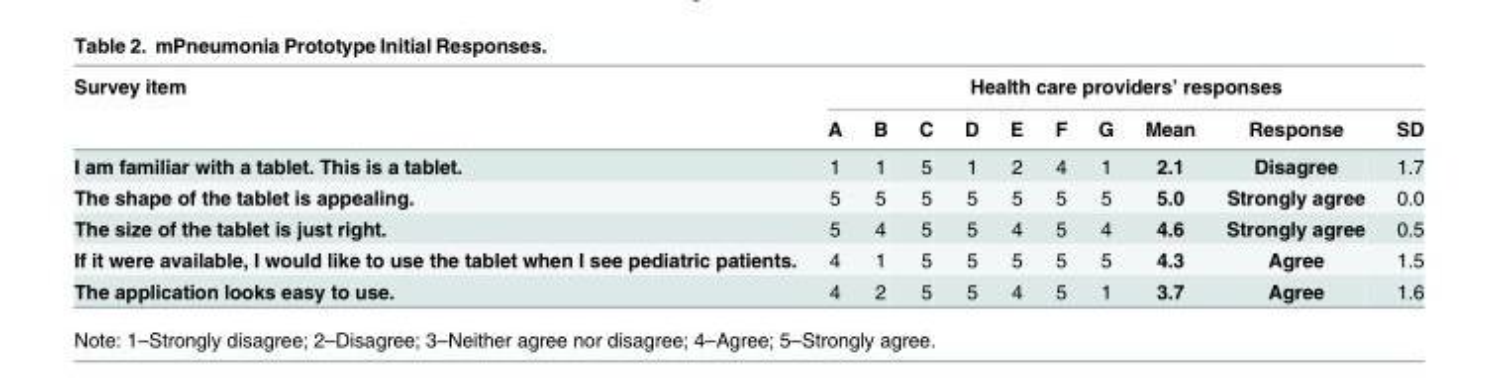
<table><thead><tr><td rowspan="2">Survey item</td><td colspan="10">Health care providers’ responses</td></tr><tr><td>A</td><td>B</td><td>C</td><td>D</td><td>E</td><td>F</td><td>G</td><td>Mean</td><td>Response</td><td>SD</td></tr></thead><tbody><tr><td>I am familiar with a tablet. This is a tablet.</td><td>1</td><td>1</td><td>5</td><td>1</td><td>2</td><td>4</td><td>1</td><td>2.1</td><td>Disagree</td><td>1.7</td></tr><tr><td>The shape of the tablet is appealing.</td><td>5</td><td>5</td><td>5</td><td>5</td><td>5</td><td>5</td><td>5</td><td>5.0</td><td>Strongly agree</td><td>0.0</td></tr><tr><td>The size of the tablet is just right.</td><td>5</td><td>4</td><td>5</td><td>5</td><td>4</td><td>5</td><td>4</td><td>4.6</td><td>Strongly agree</td><td>0.5</td></tr><tr><td>If it were available, I would like to use the tablet when I see pediatric patients.</td><td>4</td><td>1</td><td>5</td><td>5</td><td>5</td><td>5</td><td>5</td><td>4.3</td><td>Agree</td><td>1.5</td></tr><tr><td>The application looks easy to use.</td><td>4</td><td>2</td><td>5</td><td>5</td><td>4</td><td>5</td><td>1</td><td>3.7</td><td>Agree</td><td>1.6</td></tr></tbody></table>